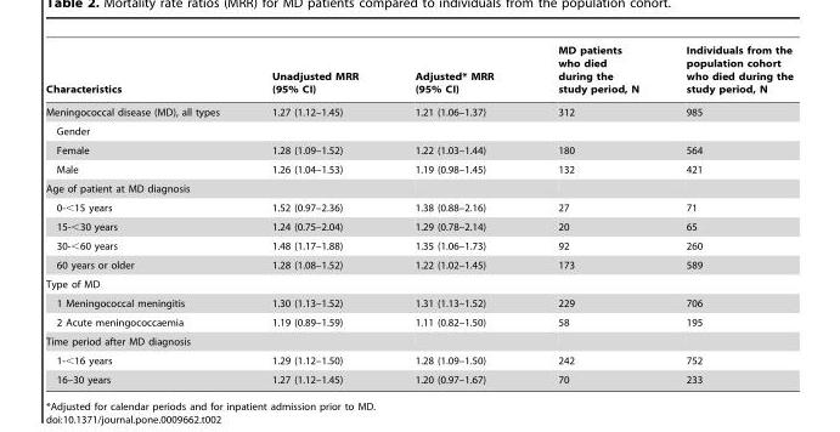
<table><thead><tr><td>Characteristics</td><td>Unadjusted MRR (95% CI)</td><td>Adjusted* MRR (95% CI)</td><td>MD patients who died during the study period, N</td><td>Individuals from the population cohort who died during the study period, N</td></tr></thead><tbody><tr><td>Meningococcal disease (MD), all types</td><td>1.27 (1.12–1.45)</td><td>1.21 (1.06–1.37)</td><td>312</td><td>985</td></tr><tr><td colspan="5">Gender</td></tr><tr><td>Female</td><td>1.28 (1.09–1.52)</td><td>1.22 (1.03–1.44)</td><td>180</td><td>564</td></tr><tr><td>Male</td><td>1.26 (1.04–1.53)</td><td>1.19 (0.98–1.45)</td><td>132</td><td>421</td></tr><tr><td colspan="5">Age of patient at MD diagnosis</td></tr><tr><td>0-&lt;15 years</td><td>1.52 (0.97–2.36)</td><td>1.38 (0.88–2.16)</td><td>27</td><td>71</td></tr><tr><td>15-&lt;30 years</td><td>1.24 (0.75–2.04)</td><td>1.29 (0.78–2.14)</td><td>20</td><td>65</td></tr><tr><td>30-&lt;60 years</td><td>1.48 (1.17–1.88)</td><td>1.35 (1.06–1.73)</td><td>92</td><td>260</td></tr><tr><td>60 years or older</td><td>1.28 (1.08–1.52)</td><td>1.22 (1.02–1.45)</td><td>173</td><td>589</td></tr><tr><td colspan="5">Type of MD</td></tr><tr><td>1 Meningococcal meningitis</td><td>1.30 (1.13–1.52)</td><td>1.31 (1.13–1.52)</td><td>229</td><td>706</td></tr><tr><td>2 Acute meningococcaemia</td><td>1.19 (0.89–1.59)</td><td>1.11 (0.82–1.50)</td><td>58</td><td>195</td></tr><tr><td colspan="5">Time period after MD diagnosis</td></tr><tr><td>1-&lt;16 years</td><td>1.29 (1.12–1.50)</td><td>1.28 (1.09–1.50)</td><td>242</td><td>752</td></tr><tr><td>16–30 years</td><td>1.27 (1.12–1.45)</td><td>1.20 (0.97–1.67)</td><td>70</td><td>233</td></tr></tbody></table>